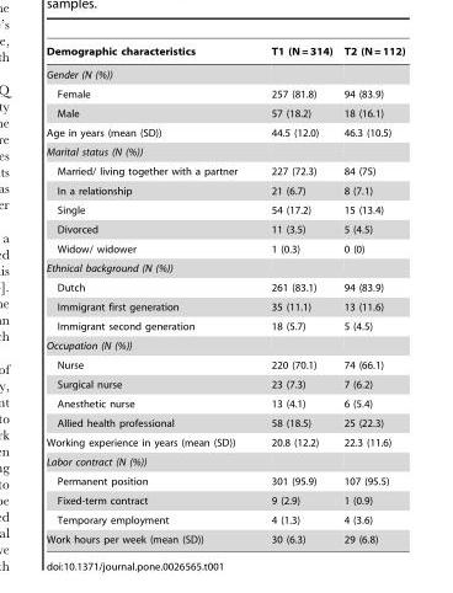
<table><thead><tr><td>Demographic characteristics</td><td>T1 (N = 314)</td><td>T2 (N = 112)</td></tr></thead><tbody><tr><td colspan="3">Gender (N (%))</td></tr><tr><td>Female</td><td>257 (81.8)</td><td>94 (83.9)</td></tr><tr><td>Male</td><td>57 (18.2)</td><td>18 (16.1)</td></tr><tr><td>Age in years (mean (SD))</td><td>44.5 (12.0)</td><td>46.3 (10.5)</td></tr><tr><td colspan="3">Marital status (N (%))</td></tr><tr><td>Married/ living together with a partner</td><td>227 (72.3)</td><td>84 (75)</td></tr><tr><td>In a relationship</td><td>21 (6.7)</td><td>8 (7.1)</td></tr><tr><td>Single</td><td>54 (17.2)</td><td>15 (13.4)</td></tr><tr><td>Divorced</td><td>11 (3.5)</td><td>5 (4.5)</td></tr><tr><td>Widow/ widower</td><td>1 (0.3)</td><td>0 (0)</td></tr><tr><td colspan="3">Ethnical background (N (%))</td></tr><tr><td>Dutch</td><td>261 (83.1)</td><td>94 (83.9)</td></tr><tr><td>Immigrant first generation</td><td>35 (11.1)</td><td>13 (11.6)</td></tr><tr><td>Immigrant second generation</td><td>18 (5.7)</td><td>5 (4.5)</td></tr><tr><td colspan="3">Occupation (N (%))</td></tr><tr><td>Nurse</td><td>220 (70.1)</td><td>74 (66.1)</td></tr><tr><td>Surgical nurse</td><td>23 (7.3)</td><td>7 (6.2)</td></tr><tr><td>Anesthetic nurse</td><td>13 (4.1)</td><td>6 (5.4)</td></tr><tr><td>Allied health professional</td><td>58 (18.5)</td><td>25 (22.3)</td></tr><tr><td>Working experience in years (mean (SD))</td><td>20.8 (12.2)</td><td>22.3 (11.6)</td></tr><tr><td colspan="3">Labor contract (N (%))</td></tr><tr><td>Permanent position</td><td>301 (95.9)</td><td>107 (95.5)</td></tr><tr><td>Fixed-term contract</td><td>9 (2.9)</td><td>1 (0.9)</td></tr><tr><td>Temporary employment</td><td>4 (1.3)</td><td>4 (3.6)</td></tr><tr><td>Work hours per week (mean (SD))</td><td>30 (6.3)</td><td>29 (6.8)</td></tr></tbody></table>